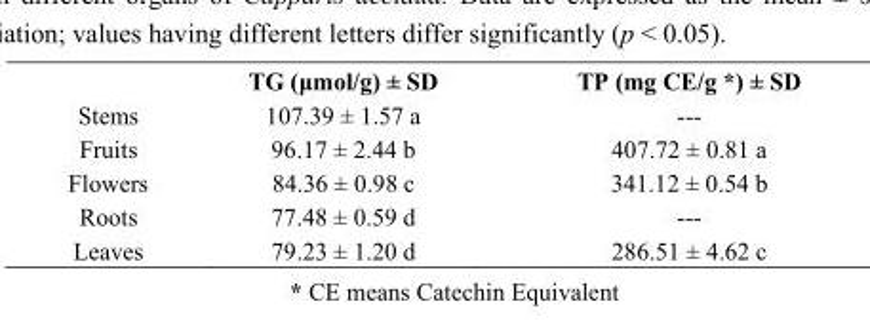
<table><thead><tr><td></td><td>TG (μmol/g) ± SD</td><td>TP (mg CE/g *) ± SD</td></tr></thead><tbody><tr><td>Stems</td><td>107.39 ± 1.57 a</td><td>---</td></tr><tr><td>Fruits</td><td>96.17 ± 2.44 b</td><td>407.72 ± 0.81 a</td></tr><tr><td>Flowers</td><td>84.36 ± 0.98 c</td><td>341.12 ± 0.54 b</td></tr><tr><td>Roots</td><td>77.48 ± 0.59 d</td><td>---</td></tr><tr><td>Leaves</td><td>79.23 ± 1.20 d</td><td>286.51 ± 4.62 c</td></tr></tbody></table>